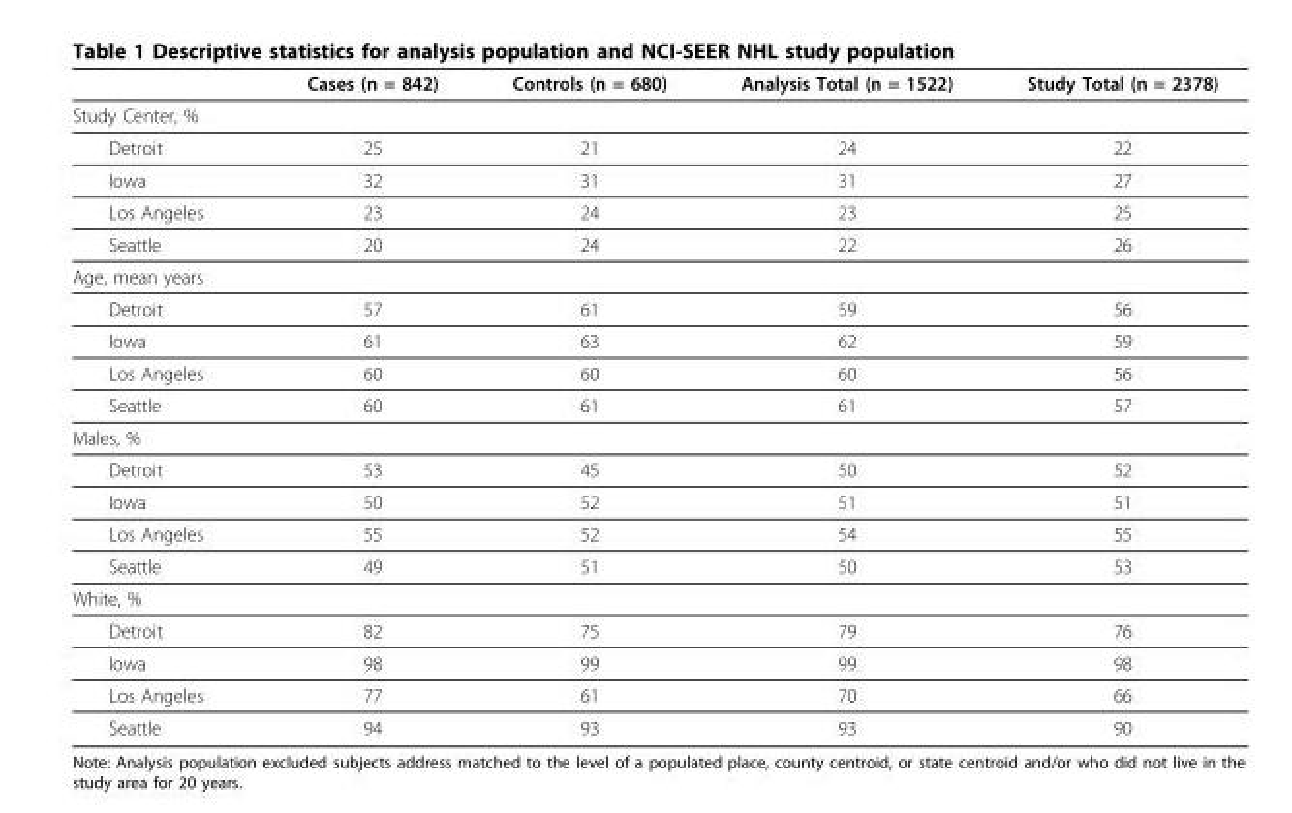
<table><thead><tr><td></td><td>Cases (n = 842)</td><td>Controls (n = 680)</td><td>Analysis Total (n = 1522)</td><td>Study Total (n = 2378)</td></tr></thead><tbody><tr><td colspan="5">Study Center, %</td></tr><tr><td>Detroit</td><td>25</td><td>21</td><td>24</td><td>22</td></tr><tr><td>Iowa</td><td>32</td><td>31</td><td>31</td><td>27</td></tr><tr><td>Los Angeles</td><td>23</td><td>24</td><td>23</td><td>25</td></tr><tr><td>Seattle</td><td>20</td><td>24</td><td>22</td><td>26</td></tr><tr><td colspan="5">Age, mean years</td></tr><tr><td>Detroit</td><td>57</td><td>61</td><td>59</td><td>56</td></tr><tr><td>Iowa</td><td>61</td><td>63</td><td>62</td><td>59</td></tr><tr><td>Los Angeles</td><td>60</td><td>60</td><td>60</td><td>56</td></tr><tr><td>Seattle</td><td>60</td><td>61</td><td>61</td><td>57</td></tr><tr><td colspan="5">Males, %</td></tr><tr><td>Detroit</td><td>53</td><td>45</td><td>50</td><td>52</td></tr><tr><td>Iowa</td><td>50</td><td>52</td><td>51</td><td>51</td></tr><tr><td>Los Angeles</td><td>55</td><td>52</td><td>54</td><td>55</td></tr><tr><td>Seattle</td><td>49</td><td>51</td><td>50</td><td>53</td></tr><tr><td colspan="5">White, %</td></tr><tr><td>Detroit</td><td>82</td><td>75</td><td>79</td><td>76</td></tr><tr><td>Iowa</td><td>98</td><td>99</td><td>99</td><td>98</td></tr><tr><td>Los Angeles</td><td>77</td><td>61</td><td>70</td><td>66</td></tr><tr><td>Seattle</td><td>94</td><td>93</td><td>93</td><td>90</td></tr></tbody></table>